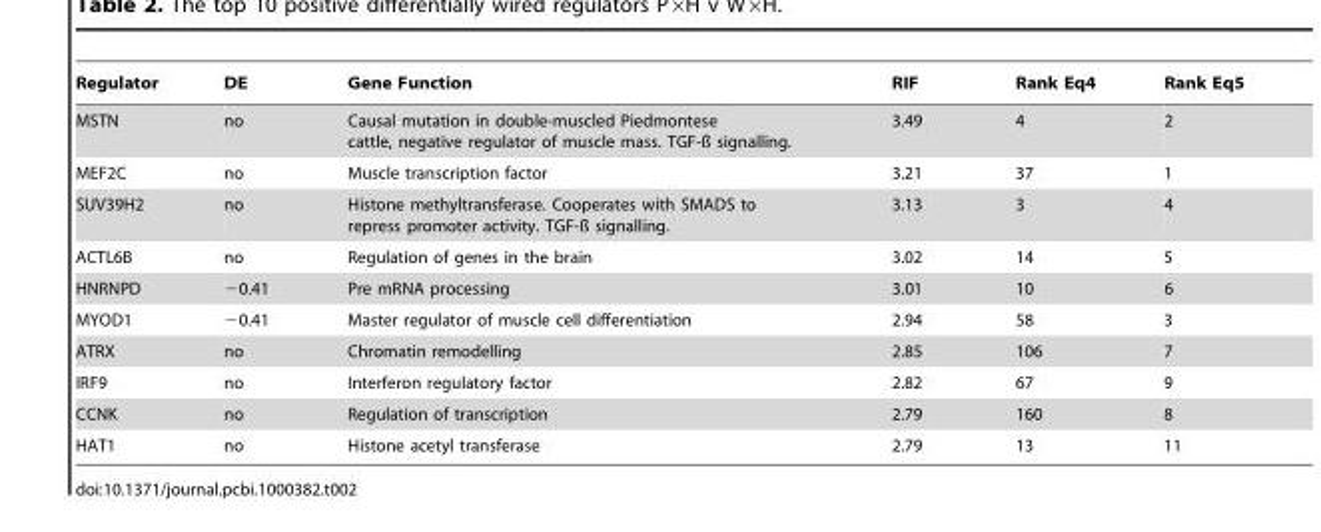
<table><thead><tr><td>Regulator</td><td>DE</td><td>Gene Function</td><td>RIF</td><td>Rank Eq4</td><td>Rank Eq5</td></tr></thead><tbody><tr><td>MSTN</td><td>no</td><td>Causal mutation in double-muscled Piedmontese cattle, negative regulator of muscle mass. TGF-ß signalling.</td><td>3.49</td><td>4</td><td>2</td></tr><tr><td>MEF2C</td><td>no</td><td>Muscle transcription factor</td><td>3.21</td><td>37</td><td>1</td></tr><tr><td>SUV39H2</td><td>no</td><td>Histone methyltransferase. Cooperates with SMADS to repress promoter activity. TGF-ß signalling.</td><td>3.13</td><td>3</td><td>4</td></tr><tr><td>ACTL6B</td><td>no</td><td>Regulation of genes in the brain</td><td>3.02</td><td>14</td><td>5</td></tr><tr><td>HNRNPD</td><td>−0.41</td><td>Pre mRNA processing</td><td>3.01</td><td>10</td><td>6</td></tr><tr><td>MYOD1</td><td>−0.41</td><td>Master regulator of muscle cell differentiation</td><td>2.94</td><td>58</td><td>3</td></tr><tr><td>ATRX</td><td>no</td><td>Chromatin remodelling</td><td>2.85</td><td>106</td><td>7</td></tr><tr><td>IRF9</td><td>no</td><td>Interferon regulatory factor</td><td>2.82</td><td>67</td><td>9</td></tr><tr><td>CCNK</td><td>no</td><td>Regulation of transcription</td><td>2.79</td><td>160</td><td>8</td></tr><tr><td>HAT1</td><td>no</td><td>Histone acetyl transferase</td><td>2.79</td><td>13</td><td>11</td></tr></tbody></table>